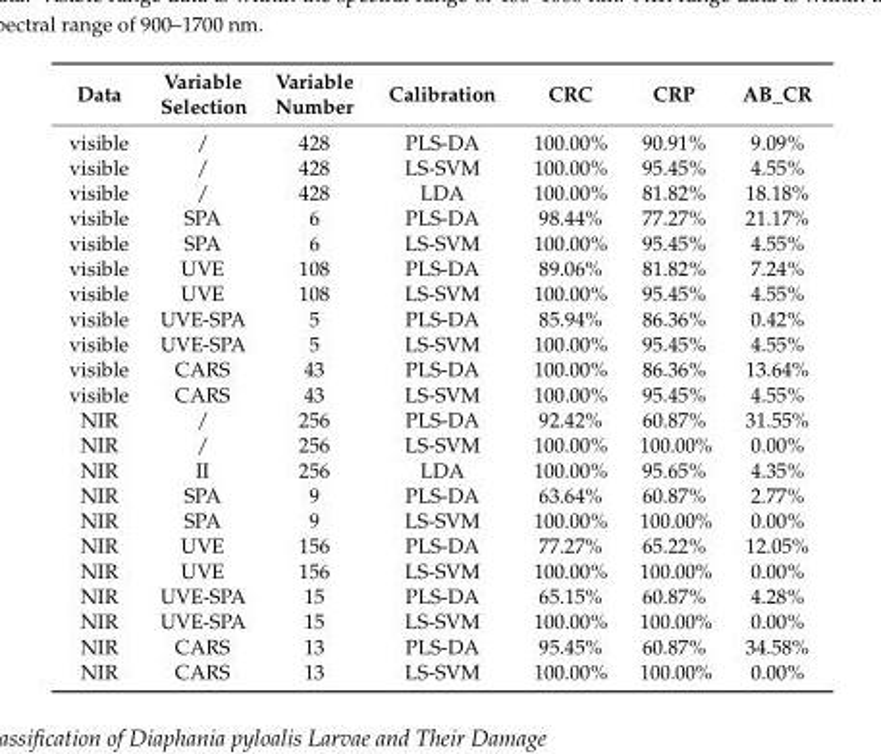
<table><thead><tr><td>Data</td><td>Variable Selection</td><td>Variable Number</td><td>Calibration</td><td>CRC</td><td>CRP</td><td>AB_CR</td></tr></thead><tbody><tr><td>visible</td><td>/</td><td>428</td><td>PLS-DA</td><td>100.00%</td><td>90.91%</td><td>9.09%</td></tr><tr><td>visible</td><td>/</td><td>428</td><td>LS-SVM</td><td>100.00%</td><td>95.45%</td><td>4.55%</td></tr><tr><td>visible</td><td>/</td><td>428</td><td>LDA</td><td>100.00%</td><td>81.82%</td><td>18.18%</td></tr><tr><td>visible</td><td>SPA</td><td>6</td><td>PLS-DA</td><td>98.44%</td><td>77.27%</td><td>21.17%</td></tr><tr><td>visible</td><td>SPA</td><td>6</td><td>LS-SVM</td><td>100.00%</td><td>95.45%</td><td>4.55%</td></tr><tr><td>visible</td><td>UVE</td><td>108</td><td>PLS-DA</td><td>89.06%</td><td>81.82%</td><td>7.24%</td></tr><tr><td>visible</td><td>UVE</td><td>108</td><td>LS-SVM</td><td>100.00%</td><td>95.45%</td><td>4.55%</td></tr><tr><td>visible</td><td>UVE-SPA</td><td>5</td><td>PLS-DA</td><td>85.94%</td><td>86.36%</td><td>0.42%</td></tr><tr><td>visible</td><td>UVE-SPA</td><td>5</td><td>LS-SVM</td><td>100.00%</td><td>95.45%</td><td>4.55%</td></tr><tr><td>visible</td><td>CARS</td><td>43</td><td>PLS-DA</td><td>100.00%</td><td>86.36%</td><td>13.64%</td></tr><tr><td>visible</td><td>CARS</td><td>43</td><td>LS-SVM</td><td>100.00%</td><td>95.45%</td><td>4.55%</td></tr><tr><td>NIR</td><td>/</td><td>256</td><td>PLS-DA</td><td>92.42%</td><td>60.87%</td><td>31.55%</td></tr><tr><td>NIR</td><td>/</td><td>256</td><td>LS-SVM</td><td>100.00%</td><td>100.00%</td><td>0.00%</td></tr><tr><td>NIR</td><td>II</td><td>256</td><td>LDA</td><td>100.00%</td><td>95.65%</td><td>4.35%</td></tr><tr><td>NIR</td><td>SPA</td><td>9</td><td>PLS-DA</td><td>63.64%</td><td>60.87%</td><td>2.77%</td></tr><tr><td>NIR</td><td>SPA</td><td>9</td><td>LS-SVM</td><td>100.00%</td><td>100.00%</td><td>0.00%</td></tr><tr><td>NIR</td><td>UVE</td><td>156</td><td>PLS-DA</td><td>77.27%</td><td>65.22%</td><td>12.05%</td></tr><tr><td>NIR</td><td>UVE</td><td>156</td><td>LS-SVM</td><td>100.00%</td><td>100.00%</td><td>0.00%</td></tr><tr><td>NIR</td><td>UVE-SPA</td><td>15</td><td>PLS-DA</td><td>65.15%</td><td>60.87%</td><td>4.28%</td></tr><tr><td>NIR</td><td>UVE-SPA</td><td>15</td><td>LS-SVM</td><td>100.00%</td><td>100.00%</td><td>0.00%</td></tr><tr><td>NIR</td><td>CARS</td><td>13</td><td>PLS-DA</td><td>95.45%</td><td>60.87%</td><td>34.58%</td></tr><tr><td>NIR</td><td>CARS</td><td>13</td><td>LS-SVM</td><td>100.00%</td><td>100.00%</td><td>0.00%</td></tr></tbody></table>